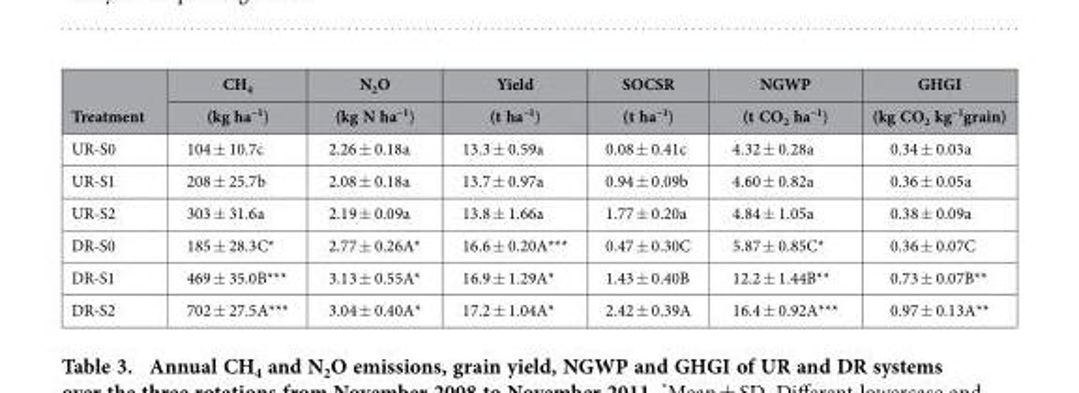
<table><thead><tr><td rowspan="2">Treatment</td><td rowspan="2">CH<sub>4</sub> (kg ha<sup>−1</sup>)</td><td rowspan="2">N<sub>2</sub>O (kg N ha<sup>−1</sup>)</td><td rowspan="2">Yield (t ha<sup>−1</sup>)</td><td rowspan="2">SOCSR (t ha<sup>−1</sup>)</td><td rowspan="2">NGWP (t CO<sub>2</sub> ha<sup>−1</sup>)</td><td rowspan="2">GHGI (kg CO<sub>2</sub> kg<sup>−1</sup>grain)</td></tr><tr></tr></thead><tbody><tr><td>UR-S0</td><td>104 ± 10.7c</td><td>2.26 ± 0.18a</td><td>13.3 ± 0.59a</td><td>0.08 ± 0.41c</td><td>4.32 ± 0.28a</td><td>0.34 ± 0.03a</td></tr><tr><td>UR-S1</td><td>208 ± 25.7b</td><td>2.08 ± 0.18a</td><td>13.7 ± 0.97a</td><td>0.94 ± 0.09b</td><td>4.60 ± 0.82a</td><td>0.36 ± 0.05a</td></tr><tr><td>UR-S2</td><td>303 ± 31.6a</td><td>2.19 ± 0.09a</td><td>13.8 ± 1.66a</td><td>1.77 ± 0.20a</td><td>4.84 ± 1.05a</td><td>0.38 ± 0.09a</td></tr><tr><td>DR-S0</td><td>185 ± 28.3C*</td><td>2.77 ± 0.26A*</td><td>16.6 ± 0.20A***</td><td>0.47 ± 0.30C</td><td>5.87 ± 0.85C*</td><td>0.36 ± 0.07C</td></tr><tr><td>DR-S1</td><td>469 ± 35.0B***</td><td>3.13 ± 0.55A*</td><td>16.9 ± 1.29A*</td><td>1.43 ± 0.40B</td><td>12.2 ± 1.44B**</td><td>0.73 ± 0.07B**</td></tr><tr><td>DR-S2</td><td>702 ± 27.5A***</td><td>3.04 ± 0.40A*</td><td>17.2 ± 1.04A*</td><td>2.42 ± 0.39A</td><td>16.4 ± 0.92A***</td><td>0.97 ± 0.13A**</td></tr></tbody></table>